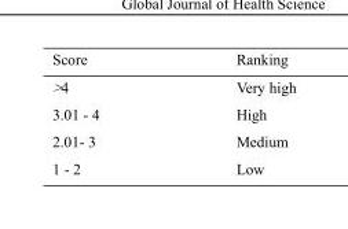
<table><thead><tr><td>Ranking</td><td>Score</td></tr></thead><tbody><tr><td>Very high</td><td>&gt;4</td></tr><tr><td>High</td><td>3.01 - 4</td></tr><tr><td>Medium</td><td>2.01- 3</td></tr><tr><td>Low</td><td>1 - 2</td></tr></tbody></table>